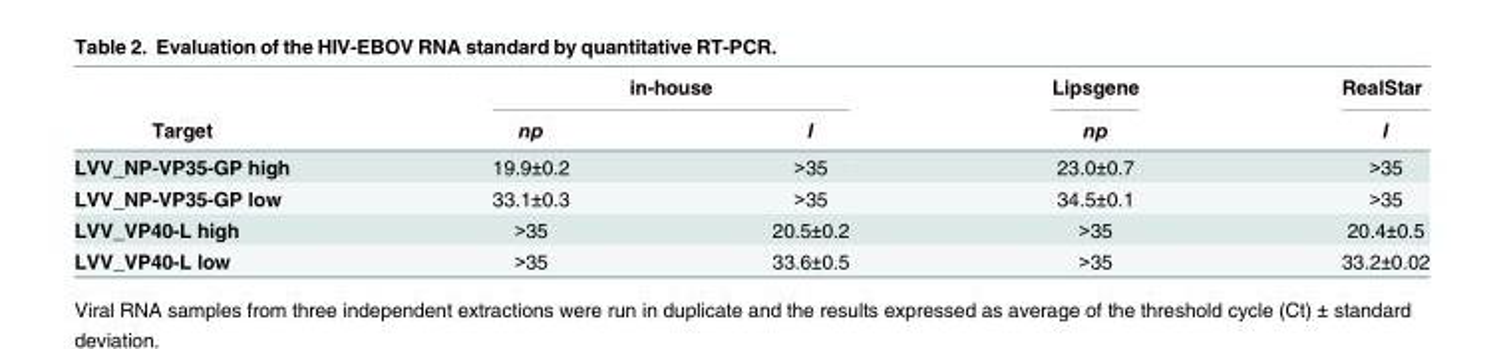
<table><thead><tr><td rowspan="2">Target</td><td colspan="2">in-house</td><td rowspan="2">Lipsgene np</td><td rowspan="2">RealStar l</td></tr><tr><td>np</td><td>l</td></tr></thead><tbody><tr><td>LVV_NP-VP35-GP high</td><td>19.9±0.2</td><td>&gt;35</td><td>23.0±0.7</td><td>&gt;35</td></tr><tr><td>LVV_NP-VP35-GP low</td><td>33.1±0.3</td><td>&gt;35</td><td>34.5±0.1</td><td>&gt;35</td></tr><tr><td>LVV_VP40-L high</td><td>&gt;35</td><td>20.5±0.2</td><td>&gt;35</td><td>20.4±0.5</td></tr><tr><td>LVV_VP40-L low</td><td>&gt;35</td><td>33.6±0.5</td><td>&gt;35</td><td>33.2±0.02</td></tr></tbody></table>